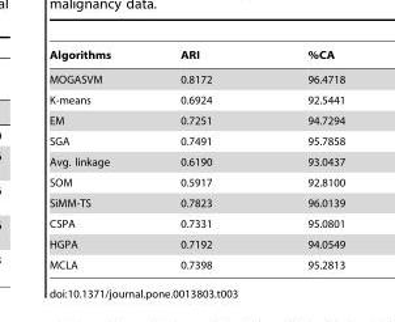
<table><thead><tr><td>Algorithms</td><td>ARI</td><td>%CA</td></tr></thead><tbody><tr><td>MOGASVM</td><td>0.8172</td><td>96.4718</td></tr><tr><td>K-means</td><td>0.6924</td><td>92.5441</td></tr><tr><td>EM</td><td>0.7251</td><td>94.7294</td></tr><tr><td>SGA</td><td>0.7491</td><td>95.7858</td></tr><tr><td>Avg. linkage</td><td>0.6190</td><td>93.0437</td></tr><tr><td>SOM</td><td>0.5917</td><td>92.8100</td></tr><tr><td>SiMM-TS</td><td>0.7823</td><td>96.0139</td></tr><tr><td>CSPA</td><td>0.7331</td><td>95.0801</td></tr><tr><td>HGPA</td><td>0.7192</td><td>94.0549</td></tr><tr><td>MCLA</td><td>0.7398</td><td>95.2813</td></tr></tbody></table>